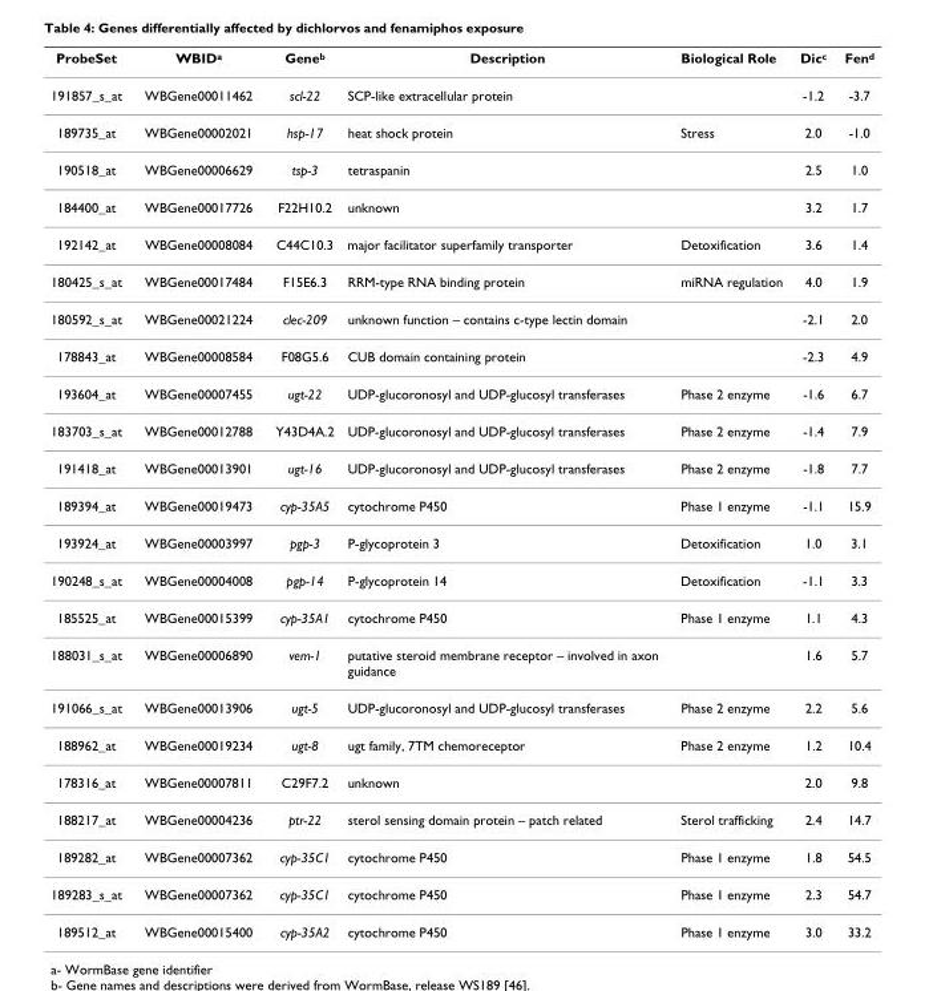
<table><thead><tr><td>ProbeSet</td><td>WBID<sup>a</sup></td><td>Gene<sup>b</sup></td><td>Description</td><td>Biological Role</td><td>Dic<sup>c</sup></td><td>Fen<sup>d</sup></td></tr></thead><tbody><tr><td>191857_s_at</td><td>WBGene00011462</td><td>scl-22</td><td>SCP-like extracellular protein</td><td></td><td>-1.2</td><td>-3.7</td></tr><tr><td>189735_at</td><td>WBGene00002021</td><td>hsp-17</td><td>heat shock protein</td><td>Stress</td><td>2.0</td><td>-1.0</td></tr><tr><td>190518_at</td><td>WBGene00006629</td><td>tsp-3</td><td>tetraspanin</td><td></td><td>2.5</td><td>1.0</td></tr><tr><td>184400_at</td><td>WBGene00017726</td><td>F22H10.2</td><td>unknown</td><td></td><td>3.2</td><td>1.7</td></tr><tr><td>192142_at</td><td>WBGene00008084</td><td>C44C10.3</td><td>major facilitator superfamily transporter</td><td>Detoxification</td><td>3.6</td><td>1.4</td></tr><tr><td>180425_s_at</td><td>WBGene00017484</td><td>F15E6.3</td><td>RRM-type RNA binding protein</td><td>miRNA regulation</td><td>4.0</td><td>1.9</td></tr><tr><td>180592_s_at</td><td>WBGene00021224</td><td>clec-209</td><td>unknown function – contains c-type lectin domain</td><td></td><td>-2.1</td><td>2.0</td></tr><tr><td>178843_at</td><td>WBGene00008584</td><td>F08G5.6</td><td>CUB domain containing protein</td><td></td><td>-2.3</td><td>4.9</td></tr><tr><td>193604_at</td><td>WBGene00007455</td><td>ugt-22</td><td>UDP-glucoronosyl and UDP-glucosyl transferases</td><td>Phase 2 enzyme</td><td>-1.6</td><td>6.7</td></tr><tr><td>183703_s_at</td><td>WBGene00012788</td><td>Y43D4A.2</td><td>UDP-glucoronosyl and UDP-glucosyl transferases</td><td>Phase 2 enzyme</td><td>-1.4</td><td>7.9</td></tr><tr><td>191418_at</td><td>WBGene00013901</td><td>ugt-16</td><td>UDP-glucoronosyl and UDP-glucosyl transferases</td><td>Phase 2 enzyme</td><td>-1.8</td><td>7.7</td></tr><tr><td>189394_at</td><td>WBGene00019473</td><td>cyp-35A5</td><td>cytochrome P450</td><td>Phase 1 enzyme</td><td>-1.1</td><td>15.9</td></tr><tr><td>193924_at</td><td>WBGene00003997</td><td>pgp-3</td><td>P-glycoprotein 3</td><td>Detoxification</td><td>1.0</td><td>3.1</td></tr><tr><td>190248_s_at</td><td>WBGene00004008</td><td>pgp-14</td><td>P-glycoprotein 14</td><td>Detoxification</td><td>-1.1</td><td>3.3</td></tr><tr><td>185525_at</td><td>WBGene00015399</td><td>cyp-35A1</td><td>cytochrome P450</td><td>Phase 1 enzyme</td><td>1.1</td><td>4.3</td></tr><tr><td>188031_s_at</td><td>WBGene00006890</td><td>vem-1</td><td>putative steroid membrane receptor – involved in axon guidance</td><td></td><td>1.6</td><td>5.7</td></tr><tr><td>191066_s_at</td><td>WBGene00013906</td><td>ugt-5</td><td>UDP-glucoronosyl and UDP-glucosyl transferases</td><td>Phase 2 enzyme</td><td>2.2</td><td>5.6</td></tr><tr><td>188962_at</td><td>WBGene00019234</td><td>ugt-8</td><td>ugt family, 7TM chemoreceptor</td><td>Phase 2 enzyme</td><td>1.2</td><td>10.4</td></tr><tr><td>178316_at</td><td>WBGene00007811</td><td>C29F7.2</td><td>unknown</td><td></td><td>2.0</td><td>9.8</td></tr><tr><td>188217_at</td><td>WBGene00004236</td><td>ptr-22</td><td>sterol sensing domain protein – patch related</td><td>Sterol trafficking</td><td>2.4</td><td>14.7</td></tr><tr><td>189282_at</td><td>WBGene00007362</td><td>cyp-35C1</td><td>cytochrome P450</td><td>Phase 1 enzyme</td><td>1.8</td><td>54.5</td></tr><tr><td>189283_s_at</td><td>WBGene00007362</td><td>cyp-35C1</td><td>cytochrome P450</td><td>Phase 1 enzyme</td><td>2.3</td><td>54.7</td></tr><tr><td>189512_at</td><td>WBGene00015400</td><td>cyp-35A2</td><td>cytochrome P450</td><td>Phase 1 enzyme</td><td>3.0</td><td>33.2</td></tr></tbody></table>